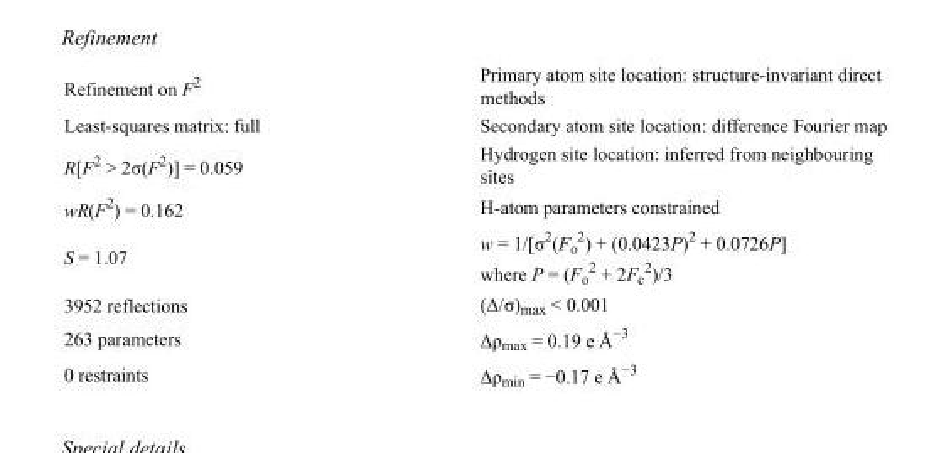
<table><tbody><tr><td>Refinement on F<sup>2</sup></td><td>Primary atom site location: structure-invariant direct methods</td></tr><tr><td>Least-squares matrix: full</td><td>Secondary atom site location: difference Fourier map</td></tr><tr><td>R[F<sup>2</sup> &gt; 2σ(F<sup>2</sup>)] = 0.059</td><td>Hydrogen site location: inferred from neighbouring sites</td></tr><tr><td>wR(F<sup>2</sup>) = 0.162</td><td>H-atom parameters constrained</td></tr><tr><td>S = 1.07</td><td>w = 1/[σ<sup>2</sup>(F<sub>o</sub> <sup>2</sup>) + (0.0423P)<sup>2</sup> + 0.0726P] where P = (F<sub>o</sub> <sup>2</sup> + 2F<sub>c</sub> <sup>2</sup>)/3</td></tr><tr><td>3952 reflections</td><td>(Δ/σ)<sub>max</sub> &lt; 0.001</td></tr><tr><td>263 parameters</td><td>Δρ<sub>max</sub> = 0.19 e Å<sup>−3</sup></td></tr><tr><td>0 restraints</td><td>Δρ<sub>min</sub> = −0.17 e Å<sup>−3</sup></td></tr></tbody></table>